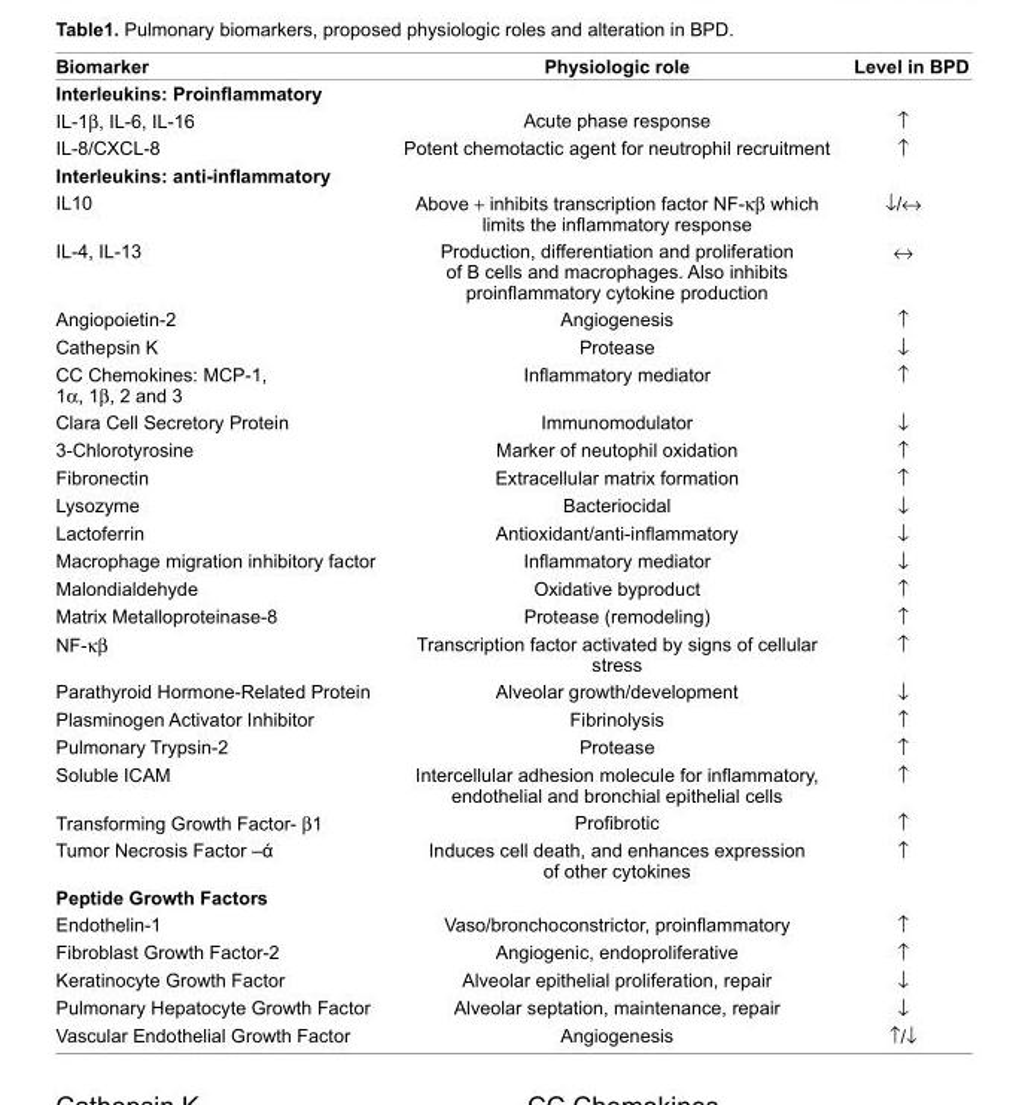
<table><thead><tr><td>Biomarker</td><td>Physiologic role</td><td>Level in BPD</td></tr></thead><tbody><tr><td colspan="3">Interleukins: Proinfl ammatory</td></tr><tr><td>IL-1β, IL-6, IL-16</td><td>Acute phase response</td><td>↑</td></tr><tr><td>IL-8/CXCL-8</td><td>Potent chemotactic agent for neutrophil recruitment</td><td>↑</td></tr><tr><td colspan="3">Interleukins: anti-infl ammatory</td></tr><tr><td>IL10</td><td>Above + inhibits transcription factor NF-κβ which limits the infl ammatory response</td><td>↓/↔</td></tr><tr><td>IL-4, IL-13</td><td>Production, differentiation and proliferation of B cells and macrophages. Also inhibits proinfl ammatory cytokine production</td><td>↔</td></tr><tr><td>Angiopoietin-2</td><td>Angiogenesis</td><td>↑</td></tr><tr><td>Cathepsin K</td><td>Protease</td><td>↓</td></tr><tr><td>CC Chemokines: MCP-1, 1α, 1β, 2 and 3</td><td>Infl ammatory mediator</td><td>↑</td></tr><tr><td>Clara Cell Secretory Protein</td><td>Immunomodulator</td><td>↓</td></tr><tr><td>3-Chlorotyrosine</td><td>Marker of neutophil oxidation</td><td>↑</td></tr><tr><td>Fibronectin</td><td>Extracellular matrix formation</td><td>↑</td></tr><tr><td>Lysozyme</td><td>Bacteriocidal</td><td>↓</td></tr><tr><td>Lactoferrin</td><td>Antioxidant/anti-infl ammatory</td><td>↓</td></tr><tr><td>Macrophage migration inhibitory factor</td><td>Infl ammatory mediator</td><td>↓</td></tr><tr><td>Malondialdehyde</td><td>Oxidative byproduct</td><td>↑</td></tr><tr><td>Matrix Metalloproteinase-8</td><td>Protease (remodeling)</td><td>↑</td></tr><tr><td>NF-κβ</td><td>Transcription factor activated by signs of cellular stress</td><td>↑</td></tr><tr><td>Parathyroid Hormone-Related Protein</td><td>Alveolar growth/development</td><td>↓</td></tr><tr><td>Plasminogen Activator Inhibitor</td><td>Fibrinolysis</td><td>↑</td></tr><tr><td>Pulmonary Trypsin-2</td><td>Protease</td><td>↑</td></tr><tr><td>Soluble ICAM</td><td>Intercellular adhesion molecule for infl ammatory, endothelial and bronchial epithelial cells</td><td>↑</td></tr><tr><td>Transforming Growth Factor- β1</td><td>Profi brotic</td><td>↑</td></tr><tr><td>Tumor Necrosis Factor –ά</td><td>Induces cell death, and enhances expression of other cytokines</td><td>↑</td></tr><tr><td colspan="3">Peptide Growth Factors</td></tr><tr><td>Endothelin-1</td><td>Vaso/bronchoconstrictor, proinfl ammatory</td><td>↑</td></tr><tr><td>Fibroblast Growth Factor-2</td><td>Angiogenic, endoproliferative</td><td>↑</td></tr><tr><td>Keratinocyte Growth Factor</td><td>Alveolar epithelial proliferation, repair</td><td>↓</td></tr><tr><td>Pulmonary Hepatocyte Growth Factor</td><td>Alveolar septation, maintenance, repair</td><td>↓</td></tr><tr><td>Vascular Endothelial Growth Factor</td><td>Angiogenesis</td><td>↑/↓</td></tr></tbody></table>